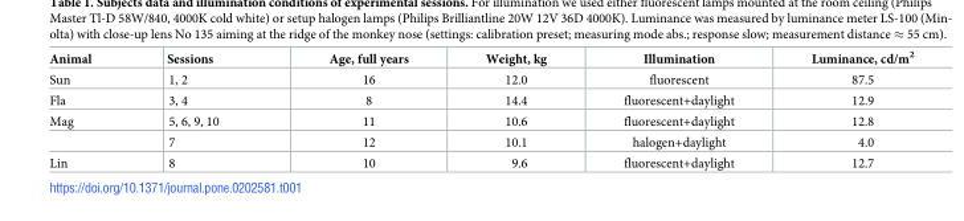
<table><thead><tr><td>Animal</td><td>Sessions</td><td>Age, full years</td><td>Weight, kg</td><td>Illumination</td><td>Luminance, cd/m<sup>2</sup></td></tr></thead><tbody><tr><td>Sun</td><td>1, 2</td><td>16</td><td>12.0</td><td>fluorescent</td><td>87.5</td></tr><tr><td>Fla</td><td>3, 4</td><td>8</td><td>14.4</td><td>fluorescent+daylight</td><td>12.9</td></tr><tr><td rowspan="2">Mag</td><td>5, 6, 9, 10</td><td>11</td><td>10.6</td><td>fluorescent+daylight</td><td>12.8</td></tr><tr><td>7</td><td>12</td><td>10.1</td><td>halogen+daylight</td><td>4.0</td></tr><tr><td>Lin</td><td>8</td><td>10</td><td>9.6</td><td>fluorescent+daylight</td><td>12.7</td></tr></tbody></table>